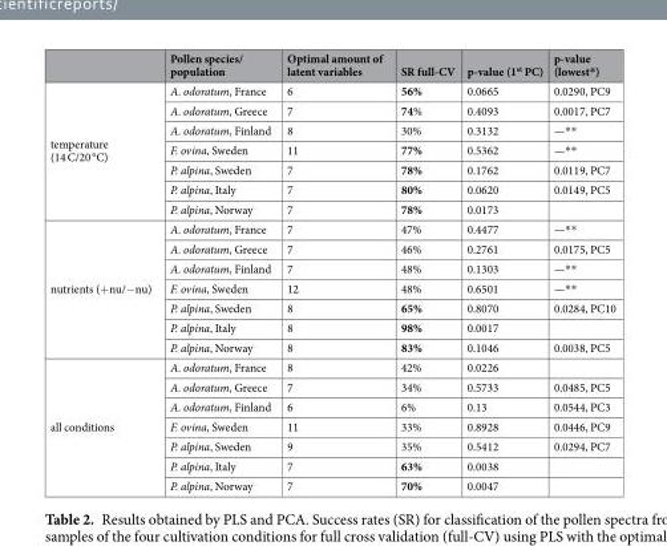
<table><thead><tr><td></td><td>Pollen species/ population</td><td>Optimal amount of latent variables</td><td>SR full-CV</td><td>p-value (1<sup>st</sup> PC)</td><td>p-value (lowest*)</td></tr></thead><tbody><tr><td rowspan="7">temperature (14 C/20 °C)</td><td>A. odoratum, France</td><td>6</td><td>56%</td><td>0.0665</td><td>0.0290, PC9</td></tr><tr><td>A. odoratum, Greece</td><td>7</td><td>74%</td><td>0.4093</td><td>0.0017, PC7</td></tr><tr><td>A. odoratum, Finland</td><td>8</td><td>30%</td><td>0.3132</td><td>—**</td></tr><tr><td>F. ovina, Sweden</td><td>11</td><td>77%</td><td>0.5362</td><td>—**</td></tr><tr><td>P. alpina, Sweden</td><td>7</td><td>78%</td><td>0.1762</td><td>0.0119, PC7</td></tr><tr><td>P. alpina, Italy</td><td>7</td><td>80%</td><td>0.0620</td><td>0.0149, PC5</td></tr><tr><td>P. alpina, Norway</td><td>7</td><td>78%</td><td>0.0173</td><td></td></tr><tr><td rowspan="7">nutrients (+nu/−nu)</td><td>A. odoratum, France</td><td>7</td><td>47%</td><td>0.4477</td><td>—**</td></tr><tr><td>A. odoratum, Greece</td><td>7</td><td>46%</td><td>0.2761</td><td>0.0175, PC5</td></tr><tr><td>A. odoratum, Finland</td><td>7</td><td>48%</td><td>0.1303</td><td>—**</td></tr><tr><td>F. ovina, Sweden</td><td>12</td><td>48%</td><td>0.6501</td><td>—**</td></tr><tr><td>P. alpina, Sweden</td><td>8</td><td>65%</td><td>0.8070</td><td>0.0284, PC10</td></tr><tr><td>P. alpina, Italy</td><td>8</td><td>98%</td><td>0.0017</td><td></td></tr><tr><td>P. alpina, Norway</td><td>8</td><td>83%</td><td>0.1046</td><td>0.0038, PC5</td></tr><tr><td rowspan="7">all conditions</td><td>A. odoratum, France</td><td>8</td><td>42%</td><td>0.0226</td><td></td></tr><tr><td>A. odoratum, Greece</td><td>7</td><td>34%</td><td>0.5733</td><td>0.0485, PC5</td></tr><tr><td>A. odoratum, Finland</td><td>6</td><td>6%</td><td>0.13</td><td>0.0544, PC3</td></tr><tr><td>F. ovina, Sweden</td><td>11</td><td>33%</td><td>0.8928</td><td>0.0446, PC9</td></tr><tr><td>P. alpina, Sweden</td><td>9</td><td>35%</td><td>0.5412</td><td>0.0294, PC7</td></tr><tr><td>P. alpina, Italy</td><td>7</td><td>63%</td><td>0.0038</td><td></td></tr><tr><td>P. alpina, Norway</td><td>7</td><td>70%</td><td>0.0047</td><td></td></tr></tbody></table>